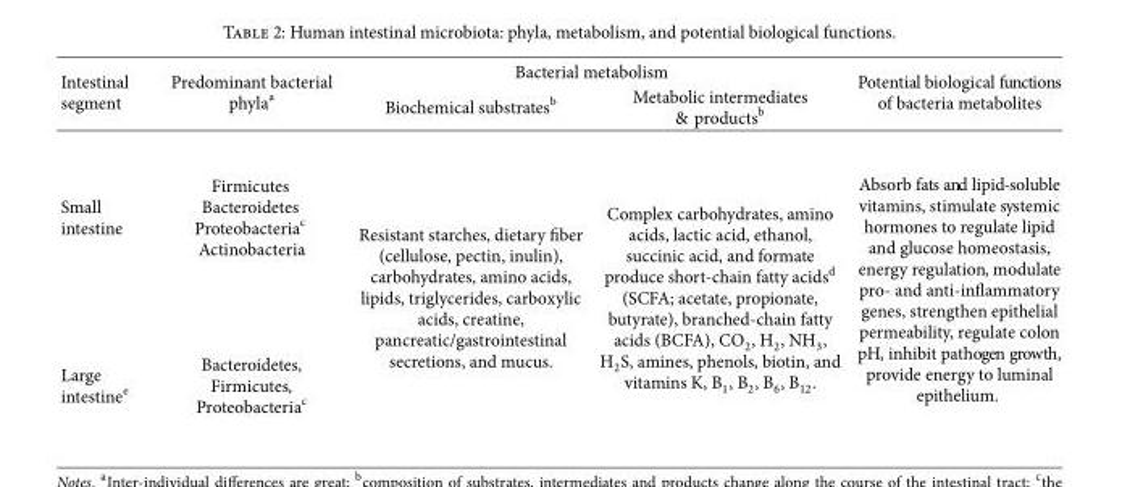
<table><thead><tr><td rowspan="2">Intestinal segment</td><td rowspan="2">Predominant bacterial phyla<sup>a</sup></td><td colspan="2">Bacterial metabolism</td><td rowspan="2">Potential biological functions of bacteria metabolites</td></tr><tr><td>Biochemical substrates<sup>b</sup></td><td>Metabolic intermediates &amp; products<sup>b</sup></td></tr></thead><tbody><tr><td>Small intestine</td><td>Firmicutes Bacteroidetes Proteobacteria<sup>c</sup> Actinobacteria</td><td rowspan="2">Resistant starches, dietary fiber (cellulose, pectin, inulin), carbohydrates, amino acids, lipids, triglycerides, carboxylic acids, creatine, pancreatic/gastrointestinal secretions, and mucus.</td><td rowspan="2">Complex carbohydrates, amino acids, lactic acid, ethanol, succinic acid, and formate produce short-chain fatty acids<sup>d</sup> (SCFA; acetate, propionate, butyrate), branched-chain fatty acids (BCFA), CO<sub>2</sub>, H<sub>2</sub>, NH<sub>3</sub>, H<sub>2</sub>S, amines, phenols, biotin, and vitamins K, B<sub>1</sub>, B<sub>2</sub>, B<sub>6</sub>, B<sub>12</sub>.</td><td rowspan="2">Absorb fats and lipid-soluble vitamins, stimulate systemic hormones to regulate lipid and glucose homeostasis, energy regulation, modulate pro- and anti-inflammatory genes, strengthen epithelial permeability, regulate colon pH, inhibit pathogen growth, provide energy to luminal epithelium.</td></tr><tr><td>Large intestine<sup>e</sup></td><td>Bacteroidetes, Firmicutes, Proteobacteria<sup>c</sup></td></tr></tbody></table>